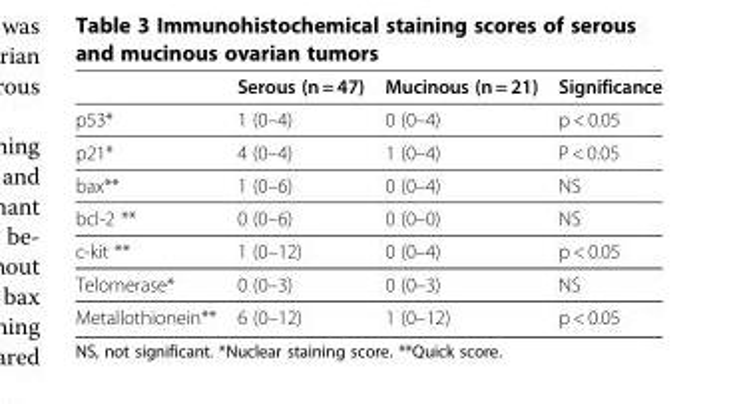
<table><thead><tr><td></td><td>Serous (n = 47)</td><td>Mucinous (n = 21)</td><td>Significance</td></tr></thead><tbody><tr><td>p53*</td><td>1 (0–4)</td><td>0 (0–4)</td><td>p &lt; 0.05</td></tr><tr><td>p21*</td><td>4 (0–4)</td><td>1 (0–4)</td><td>P &lt; 0.05</td></tr><tr><td>bax**</td><td>1 (0–6)</td><td>0 (0–4)</td><td>NS</td></tr><tr><td>bcl-2 **</td><td>0 (0–6)</td><td>0 (0–0)</td><td>NS</td></tr><tr><td>c-kit **</td><td>1 (0–12)</td><td>0 (0–4)</td><td>p &lt; 0.05</td></tr><tr><td>Telomerase*</td><td>0 (0–3)</td><td>0 (0–3)</td><td>NS</td></tr><tr><td>Metallothionein**</td><td>6 (0–12)</td><td>1 (0–12)</td><td>p &lt; 0.05</td></tr></tbody></table>